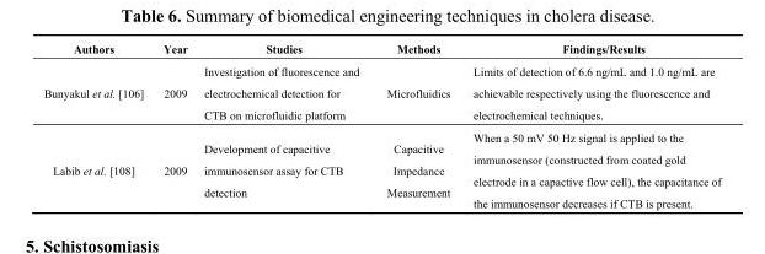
<table><thead><tr><td>Authors</td><td>Year</td><td>Studies</td><td>Methods</td><td>Findings/Results</td></tr></thead><tbody><tr><td>Bunyakul et al. [106]</td><td>2009</td><td>Investigation of fluorescence and electrochemical detection for CTB on microfluidic platform</td><td>Microfluidics</td><td>Limits of detection of 6.6 ng/mL and 1.0 ng/mL are achievable respectively using the fluorescence and electrochemical techniques.</td></tr><tr><td>Labib et al. [108]</td><td>2009</td><td>Development of capacitive immunosensor assay for CTB detection</td><td>Capacitive Impedance Measurement</td><td>When a 50 mV 50 Hz signal is applied to the immunosensor (constructed from coated gold electrode in a capactive flow cell), the capacitance of the immunosensor decreases if CTB is present.</td></tr></tbody></table>